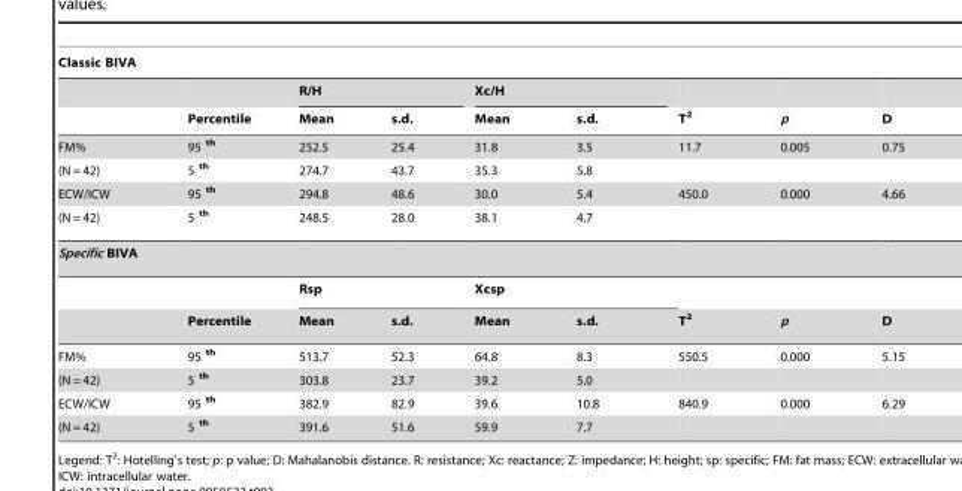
<table><thead><tr><td colspan="9">Classic BIVA</td></tr><tr><td rowspan="2"></td><td rowspan="2">Percentile</td><td colspan="2">R/H</td><td colspan="2">Xc/H</td><td rowspan="2">T2</td><td rowspan="2">p</td><td rowspan="2">D</td></tr><tr><td>Mean</td><td>s.d.</td><td>Mean</td><td>s.d.</td></tr></thead><tbody><tr><td>FM%</td><td>95 <sup>th</sup></td><td>252.5</td><td>25.4</td><td>31.8</td><td>3.5</td><td>11.7</td><td>0.005</td><td>0.75</td></tr><tr><td>(N = 42)</td><td>5 <sup>th</sup></td><td>274.7</td><td>43.7</td><td>35.3</td><td>5.8</td><td></td><td></td><td></td></tr><tr><td>ECW/ICW</td><td>95 <sup>th</sup></td><td>294.8</td><td>48.6</td><td>30.0</td><td>5.4</td><td>450.0</td><td>0.000</td><td>4.66</td></tr><tr><td>(N = 42)</td><td>5 <sup>th</sup></td><td>248.5</td><td>28.0</td><td>38.1</td><td>4.7</td><td></td><td></td><td></td></tr><tr><td colspan="9">Specific BIVA</td></tr><tr><td></td><td></td><td colspan="2">Rsp</td><td colspan="2">Xcsp</td><td></td><td></td><td></td></tr><tr><td></td><td>Percentile</td><td>Mean</td><td>s.d.</td><td>Mean</td><td>s.d.</td><td>T<sup>2</sup></td><td>p</td><td>D</td></tr><tr><td>FM%</td><td>95 <sup>th</sup></td><td>513.7</td><td>52.3</td><td>64.8</td><td>8.3</td><td>550.5</td><td>0.000</td><td>5.15</td></tr><tr><td>(N = 42)</td><td>5 <sup>th</sup></td><td>303.8</td><td>23.7</td><td>39.2</td><td>5.0</td><td></td><td></td><td></td></tr><tr><td>ECW/ICW</td><td>95 <sup>th</sup></td><td>382.9</td><td>82.9</td><td>39.6</td><td>10.8</td><td>840.9</td><td>0.000</td><td>6.29</td></tr><tr><td>(N = 42)</td><td>5 <sup>th</sup></td><td>391.6</td><td>51.6</td><td>59.9</td><td>7.7</td><td></td><td></td><td></td></tr></tbody></table>